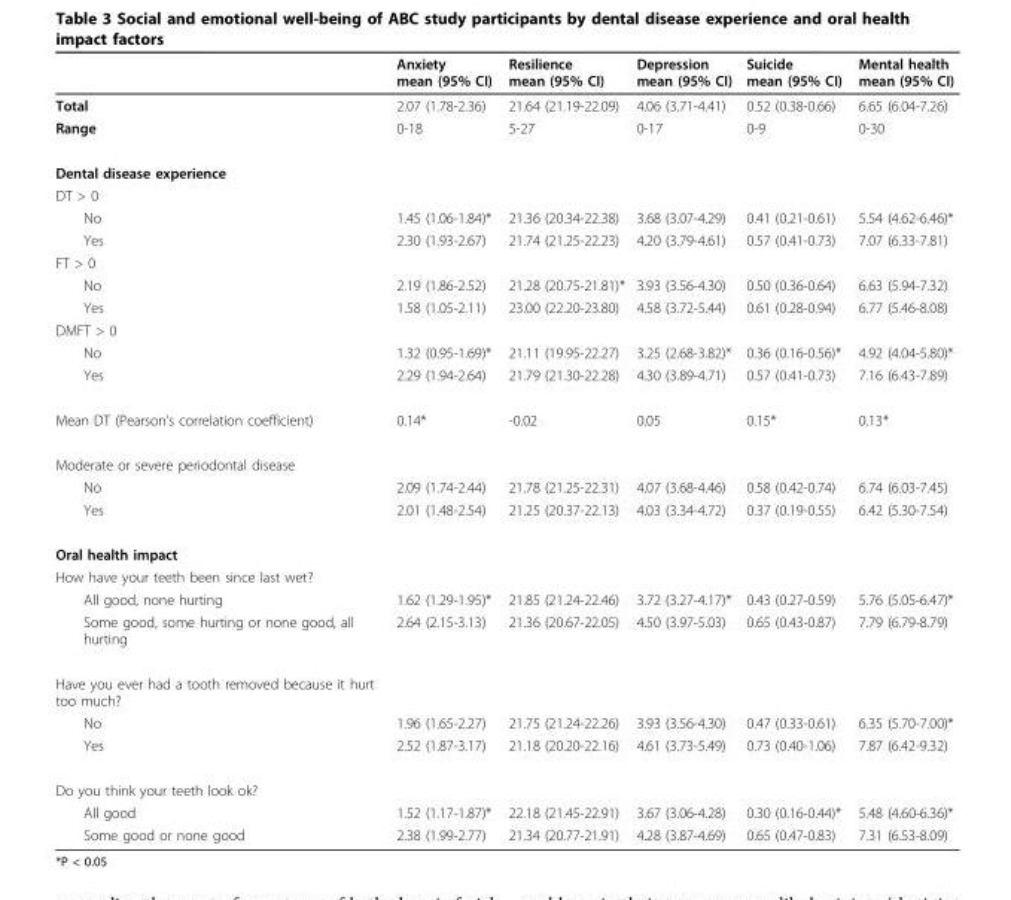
<table><thead><tr><td></td><td>Anxiety mean (95% CI)</td><td>Resilience mean (95% CI)</td><td>Depression mean (95% CI)</td><td>Suicide mean (95% CI)</td><td>Mental health mean (95% CI)</td></tr></thead><tbody><tr><td>Total</td><td>2.07 (1.78-2.36)</td><td>21.64 (21.19-22.09)</td><td>4.06 (3.71-4.41)</td><td>0.52 (0.38-0.66)</td><td>6.65 (6.04-7.26)</td></tr><tr><td>Range</td><td>0-18</td><td>5-27</td><td>0-17</td><td>0-9</td><td>0-30</td></tr><tr><td colspan="6">Dental disease experience</td></tr><tr><td colspan="6">DT &gt; 0</td></tr><tr><td>No</td><td>1.45 (1.06-1.84)*</td><td>21.36 (20.34-22.38)</td><td>3.68 (3.07-4.29)</td><td>0.41 (0.21-0.61)</td><td>5.54 (4.62-6.46)*</td></tr><tr><td>Yes</td><td>2.30 (1.93-2.67)</td><td>21.74 (21.25-22.23)</td><td>4.20 (3.79-4.61)</td><td>0.57 (0.41-0.73)</td><td>7.07 (6.33-7.81)</td></tr><tr><td colspan="6">FT &gt; 0</td></tr><tr><td>No</td><td>2.19 (1.86-2.52)</td><td>21.28 (20.75-21.81)*</td><td>3.93 (3.56-4.30)</td><td>0.50 (0.36-0.64)</td><td>6.63 (5.94-7.32)</td></tr><tr><td>Yes</td><td>1.58 (1.05-2.11)</td><td>23.00 (22.20-23.80)</td><td>4.58 (3.72-5.44)</td><td>0.61 (0.28-0.94)</td><td>6.77 (5.46-8.08)</td></tr><tr><td colspan="6">DMFT &gt; 0</td></tr><tr><td>No</td><td>1.32 (0.95-1.69)*</td><td>21.11 (19.95-22.27)</td><td>3.25 (2.68-3.82)*</td><td>0.36 (0.16-0.56)*</td><td>4.92 (4.04-5.80)*</td></tr><tr><td>Yes</td><td>2.29 (1.94-2.64)</td><td>21.79 (21.30-22.28)</td><td>4.30 (3.89-4.71)</td><td>0.57 (0.41-0.73)</td><td>7.16 (6.43-7.89)</td></tr><tr><td>Mean DT (Pearson’s correlation coefficient)</td><td>0.14*</td><td>-0.02</td><td>0.05</td><td>0.15*</td><td>0.13*</td></tr><tr><td colspan="6">Moderate or severe periodontal disease</td></tr><tr><td>No</td><td>2.09 (1.74-2.44)</td><td>21.78 (21.25-22.31)</td><td>4.07 (3.68-4.46)</td><td>0.58 (0.42-0.74)</td><td>6.74 (6.03-7.45)</td></tr><tr><td>Yes</td><td>2.01 (1.48-2.54)</td><td>21.25 (20.37-22.13)</td><td>4.03 (3.34-4.72)</td><td>0.37 (0.19-0.55)</td><td>6.42 (5.30-7.54)</td></tr><tr><td colspan="6">Oral health impact</td></tr><tr><td colspan="6">How have your teeth been since last wet?</td></tr><tr><td>All good, none hurting</td><td>1.62 (1.29-1.95)*</td><td>21.85 (21.24-22.46)</td><td>3.72 (3.27-4.17)*</td><td>0.43 (0.27-0.59)</td><td>5.76 (5.05-6.47)*</td></tr><tr><td>Some good, some hurting or none good, all hurting</td><td>2.64 (2.15-3.13)</td><td>21.36 (20.67-22.05)</td><td>4.50 (3.97-5.03)</td><td>0.65 (0.43-0.87)</td><td>7.79 (6.79-8.79)</td></tr><tr><td colspan="6">Have you ever had a tooth removed because it hurt too much?</td></tr><tr><td>No</td><td>1.96 (1.65-2.27)</td><td>21.75 (21.24-22.26)</td><td>3.93 (3.56-4.30)</td><td>0.47 (0.33-0.61)</td><td>6.35 (5.70-7.00)*</td></tr><tr><td>Yes</td><td>2.52 (1.87-3.17)</td><td>21.18 (20.20-22.16)</td><td>4.61 (3.73-5.49)</td><td>0.73 (0.40-1.06)</td><td>7.87 (6.42-9.32)</td></tr><tr><td colspan="6">Do you think your teeth look ok?</td></tr><tr><td>All good</td><td>1.52 (1.17-1.87)*</td><td>22.18 (21.45-22.91)</td><td>3.67 (3.06-4.28)</td><td>0.30 (0.16-0.44)*</td><td>5.48 (4.60-6.36)*</td></tr><tr><td>Some good or none good</td><td>2.38 (1.99-2.77)</td><td>21.34 (20.77-21.91)</td><td>4.28 (3.87-4.69)</td><td>0.65 (0.47-0.83)</td><td>7.31 (6.53-8.09)</td></tr></tbody></table>